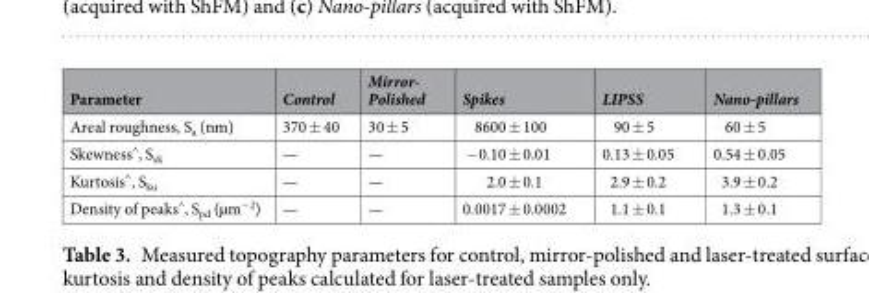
<table><thead><tr><td>Parameter</td><td>Control</td><td>Mirror- Polished</td><td>Spikes</td><td>LIPSS</td><td>Nano-pillars</td></tr></thead><tbody><tr><td>Areal roughness, S<sub>a</sub> (nm)</td><td>370 ± 40</td><td>30 ± 5</td><td>8600 ± 100</td><td>90 ± 5</td><td>60 ± 5</td></tr><tr><td>Skewness<sup>^</sup>, S<sub>sk</sub></td><td>—</td><td>—</td><td>−0.10 ± 0.01</td><td>0.13 ± 0.05</td><td>0.54 ± 0.05</td></tr><tr><td>Kurtosis<sup>^</sup>, S<sub>ku</sub></td><td>—</td><td>—</td><td>2.0 ± 0.1</td><td>2.9 ± 0.2</td><td>3.9 ± 0.2</td></tr><tr><td>Density of peaks<sup>^</sup>, S<sub>pd</sub> (µm<sup>−2</sup>)</td><td>—</td><td>—</td><td>0.0017 ± 0.0002</td><td>1.1 ± 0.1</td><td>1.3 ± 0.1</td></tr></tbody></table>